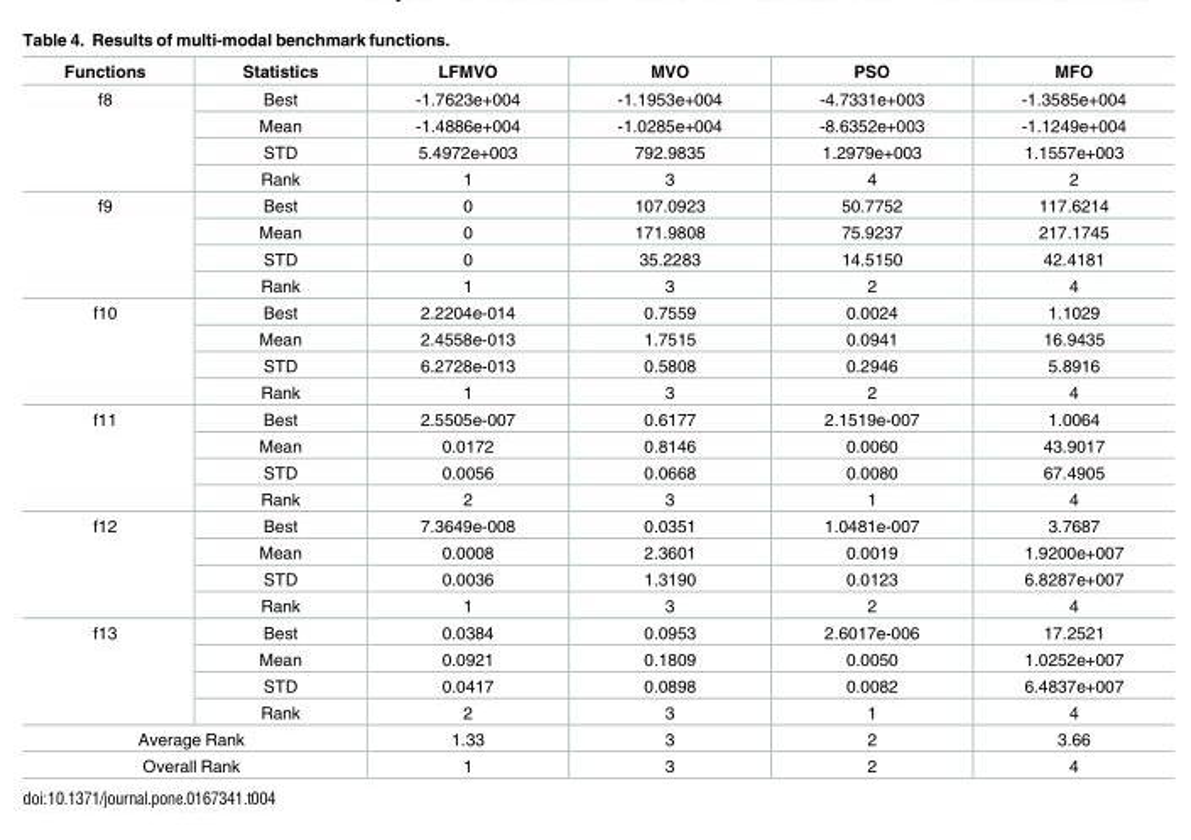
<table><thead><tr><td>Functions</td><td>Statistics</td><td>LFMVO</td><td>MVO</td><td>PSO</td><td>MFO</td></tr></thead><tbody><tr><td rowspan="4">f8</td><td>Best</td><td>-1.7623e+004</td><td>-1.1953e+004</td><td>-4.7331e+003</td><td>-1.3585e+004</td></tr><tr><td>Mean</td><td>-1.4886e+004</td><td>-1.0285e+004</td><td>-8.6352e+003</td><td>-1.1249e+004</td></tr><tr><td>STD</td><td>5.4972e+003</td><td>792.9835</td><td>1.2979e+003</td><td>1.1557e+003</td></tr><tr><td>Rank</td><td>1</td><td>3</td><td>4</td><td>2</td></tr><tr><td rowspan="4">f9</td><td>Best</td><td>0</td><td>107.0923</td><td>50.7752</td><td>117.6214</td></tr><tr><td>Mean</td><td>0</td><td>171.9808</td><td>75.9237</td><td>217.1745</td></tr><tr><td>STD</td><td>0</td><td>35.2283</td><td>14.5150</td><td>42.4181</td></tr><tr><td>Rank</td><td>1</td><td>3</td><td>2</td><td>4</td></tr><tr><td rowspan="4">f10</td><td>Best</td><td>2.2204e-014</td><td>0.7559</td><td>0.0024</td><td>1.1029</td></tr><tr><td>Mean</td><td>2.4558e-013</td><td>1.7515</td><td>0.0941</td><td>16.9435</td></tr><tr><td>STD</td><td>6.2728e-013</td><td>0.5808</td><td>0.2946</td><td>5.8916</td></tr><tr><td>Rank</td><td>1</td><td>3</td><td>2</td><td>4</td></tr><tr><td rowspan="4">f11</td><td>Best</td><td>2.5505e-007</td><td>0.6177</td><td>2.1519e-007</td><td>1.0064</td></tr><tr><td>Mean</td><td>0.0172</td><td>0.8146</td><td>0.0060</td><td>43.9017</td></tr><tr><td>STD</td><td>0.0056</td><td>0.0668</td><td>0.0080</td><td>67.4905</td></tr><tr><td>Rank</td><td>2</td><td>3</td><td>1</td><td>4</td></tr><tr><td rowspan="4">f12</td><td>Best</td><td>7.3649e-008</td><td>0.0351</td><td>1.0481e-007</td><td>3.7687</td></tr><tr><td>Mean</td><td>0.0008</td><td>2.3601</td><td>0.0019</td><td>1.9200e+007</td></tr><tr><td>STD</td><td>0.0036</td><td>1.3190</td><td>0.0123</td><td>6.8287e+007</td></tr><tr><td>Rank</td><td>1</td><td>3</td><td>2</td><td>4</td></tr><tr><td rowspan="4">f13</td><td>Best</td><td>0.0384</td><td>0.0953</td><td>2.6017e-006</td><td>17.2521</td></tr><tr><td>Mean</td><td>0.0921</td><td>0.1809</td><td>0.0050</td><td>1.0252e+007</td></tr><tr><td>STD</td><td>0.0417</td><td>0.0898</td><td>0.0082</td><td>6.4837e+007</td></tr><tr><td>Rank</td><td>2</td><td>3</td><td>1</td><td>4</td></tr><tr><td colspan="2">Average Rank</td><td>1.33</td><td>3</td><td>2</td><td>3.66</td></tr><tr><td colspan="2">Overall Rank</td><td>1</td><td>3</td><td>2</td><td>4</td></tr></tbody></table>